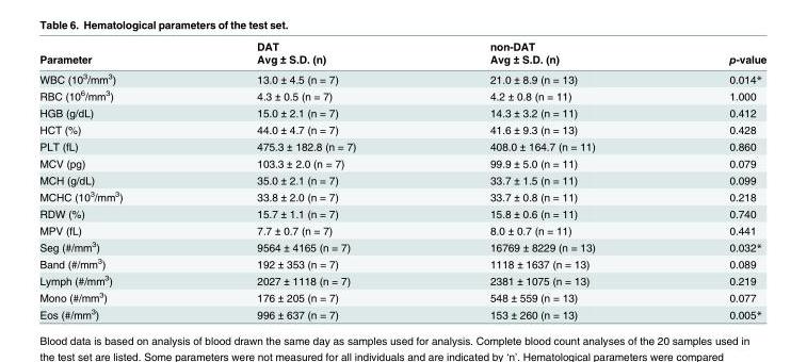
<table><thead><tr><td rowspan="2">Parameter</td><td rowspan="2">DAT Avg ± S.D. (n)</td><td rowspan="2">non-DAT Avg ± S.D. (n)</td><td rowspan="2">p-value</td></tr><tr></tr></thead><tbody><tr><td>WBC (10<sup>3</sup>/mm<sup>3</sup>)</td><td>13.0 ± 4.5 (n = 7)</td><td>21.0 ± 8.9 (n = 13)</td><td>0.014*</td></tr><tr><td>RBC (10<sup>6</sup>/mm<sup>3</sup>)</td><td>4.3 ± 0.5 (n = 7)</td><td>4.2 ± 0.8 (n = 11)</td><td>1.000</td></tr><tr><td>HGB (g/dL)</td><td>15.0 ± 2.1 (n = 7)</td><td>14.3 ± 3.2 (n = 11)</td><td>0.412</td></tr><tr><td>HCT (%)</td><td>44.0 ± 4.7 (n = 7)</td><td>41.6 ± 9.3 (n = 13)</td><td>0.428</td></tr><tr><td>PLT (fL)</td><td>475.3 ± 182.8 (n = 7)</td><td>408.0 ± 164.7 (n = 11)</td><td>0.860</td></tr><tr><td>MCV (pg)</td><td>103.3 ± 2.0 (n = 7)</td><td>99.9 ± 5.0 (n = 11)</td><td>0.079</td></tr><tr><td>MCH (g/dL)</td><td>35.0 ± 2.1 (n = 7)</td><td>33.7 ± 1.5 (n = 11)</td><td>0.099</td></tr><tr><td>MCHC (10<sup>3</sup>/mm<sup>3</sup>)</td><td>33.8 ± 2.0 (n = 7)</td><td>33.7 ± 0.8 (n = 11)</td><td>0.218</td></tr><tr><td>RDW (%)</td><td>15.7 ± 1.1 (n = 7)</td><td>15.8 ± 0.6 (n = 11)</td><td>0.740</td></tr><tr><td>MPV (fL)</td><td>7.7 ± 0.7 (n = 7)</td><td>8.0 ± 0.7 (n = 11)</td><td>0.441</td></tr><tr><td>Seg (#/mm<sup>3</sup>)</td><td>9564 ± 4165 (n = 7)</td><td>16769 ± 8229 (n = 13)</td><td>0.032*</td></tr><tr><td>Band (#/mm<sup>3</sup>)</td><td>192 ± 353 (n = 7)</td><td>1118 ± 1637 (n = 13)</td><td>0.089</td></tr><tr><td>Lymph (#/mm<sup>3</sup>)</td><td>2027 ± 1118 (n = 7)</td><td>2381 ± 1075 (n = 13)</td><td>0.219</td></tr><tr><td>Mono (#/mm<sup>3</sup>)</td><td>176 ± 205 (n = 7)</td><td>548 ± 559 (n = 13)</td><td>0.077</td></tr><tr><td>Eos (#/mm<sup>3</sup>)</td><td>996 ± 637 (n = 7)</td><td>153 ± 260 (n = 13)</td><td>0.005*</td></tr></tbody></table>